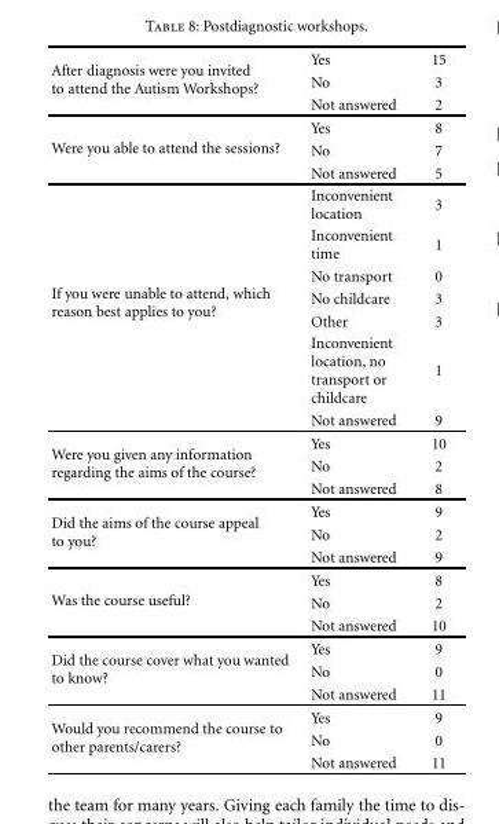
<table><tbody><tr><td rowspan="3">After diagnosis were you invited to attend the Autism Workshops?</td><td>Yes</td><td>15</td></tr><tr><td>No</td><td>3</td></tr><tr><td>Not answered</td><td>2</td></tr><tr><td rowspan="3">Were you able to attend the sessions?</td><td>Yes</td><td>8</td></tr><tr><td>No</td><td>7</td></tr><tr><td>Not answered</td><td>5</td></tr><tr><td rowspan="7">If you were unable to attend, which reason best applies to you?</td><td>Inconvenient location</td><td>3</td></tr><tr><td>Inconvenient time</td><td>1</td></tr><tr><td>No transport</td><td>0</td></tr><tr><td>No childcare</td><td>3</td></tr><tr><td>Other</td><td>3</td></tr><tr><td>Inconvenient location, no transport or childcare</td><td>1</td></tr><tr><td>Not answered</td><td>9</td></tr><tr><td rowspan="3">Were you given any information regarding the aims of the course?</td><td>Yes</td><td>10</td></tr><tr><td>No</td><td>2</td></tr><tr><td>Not answered</td><td>8</td></tr><tr><td rowspan="3">Did the aims of the course appeal to you?</td><td>Yes</td><td>9</td></tr><tr><td>No</td><td>2</td></tr><tr><td>Not answered</td><td>9</td></tr><tr><td rowspan="3">Was the course useful?</td><td>Yes</td><td>8</td></tr><tr><td>No</td><td>2</td></tr><tr><td>Not answered</td><td>10</td></tr><tr><td rowspan="3">Did the course cover what you wanted to know?</td><td>Yes</td><td>9</td></tr><tr><td>No</td><td>0</td></tr><tr><td>Not answered</td><td>11</td></tr><tr><td rowspan="3">Would you recommend the course to other parents/carers?</td><td>Yes</td><td>9</td></tr><tr><td>No</td><td>0</td></tr><tr><td>Not answered</td><td>11</td></tr></tbody></table>